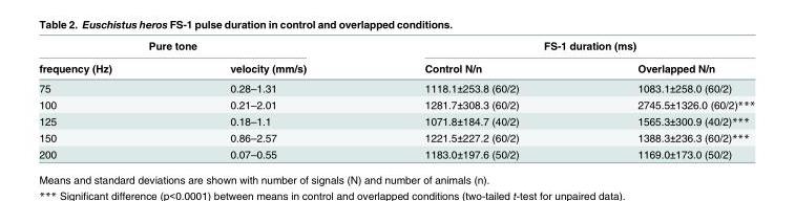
<table><thead><tr><td colspan="2">Pure tone</td><td colspan="2">FS-1 duration (ms)</td></tr><tr><td>frequency (Hz)</td><td>velocity (mm/s)</td><td>Control N/n</td><td>Overlapped N/n</td></tr></thead><tbody><tr><td>75</td><td>0.28–1.31</td><td>1118.1±253.8 (60/2)</td><td>1083.1±258.0 (60/2)</td></tr><tr><td>100</td><td>0.21–2.01</td><td>1281.7±308.3 (60/2)</td><td>2745.5±1326.0 (60/2)***</td></tr><tr><td>125</td><td>0.18–1.1</td><td>1071.8±184.7 (40/2)</td><td>1565.3±300.9 (40/2)***</td></tr><tr><td>150</td><td>0.86–2.57</td><td>1221.5±227.2 (60/2)</td><td>1388.3±236.3 (60/2)***</td></tr><tr><td>200</td><td>0.07–0.55</td><td>1183.0±197.6 (50/2)</td><td>1169.0±173.0 (50/2)</td></tr></tbody></table>